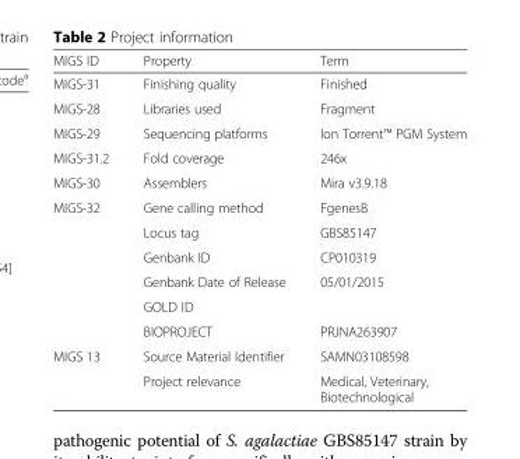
<table><thead><tr><td>MIGS ID</td><td>Property</td><td>Term</td></tr></thead><tbody><tr><td>MIGS-31</td><td>Finishing quality</td><td>Finished</td></tr><tr><td>MIGS-28</td><td>Libraries used</td><td>Fragment</td></tr><tr><td>MIGS-29</td><td>Sequencing platforms</td><td>Ion Torrent™ PGM System</td></tr><tr><td>MIGS-31.2</td><td>Fold coverage</td><td>246x</td></tr><tr><td>MIGS-30</td><td>Assemblers</td><td>Mira v3.9.18</td></tr><tr><td rowspan="6">MIGS-32</td><td>Gene calling method</td><td>FgenesB</td></tr><tr><td>Locus tag</td><td>GBS85147</td></tr><tr><td>Genbank ID</td><td>CP010319</td></tr><tr><td>Genbank Date of Release</td><td>05/01/2015</td></tr><tr><td>GOLD ID</td><td></td></tr><tr><td>BIOPROJECT</td><td>PRJNA263907</td></tr><tr><td rowspan="2">MIGS 13</td><td>Source Material Identifier</td><td>SAMN03108598</td></tr><tr><td>Project relevance</td><td>Medical, Veterinary, Biotechnological</td></tr></tbody></table>